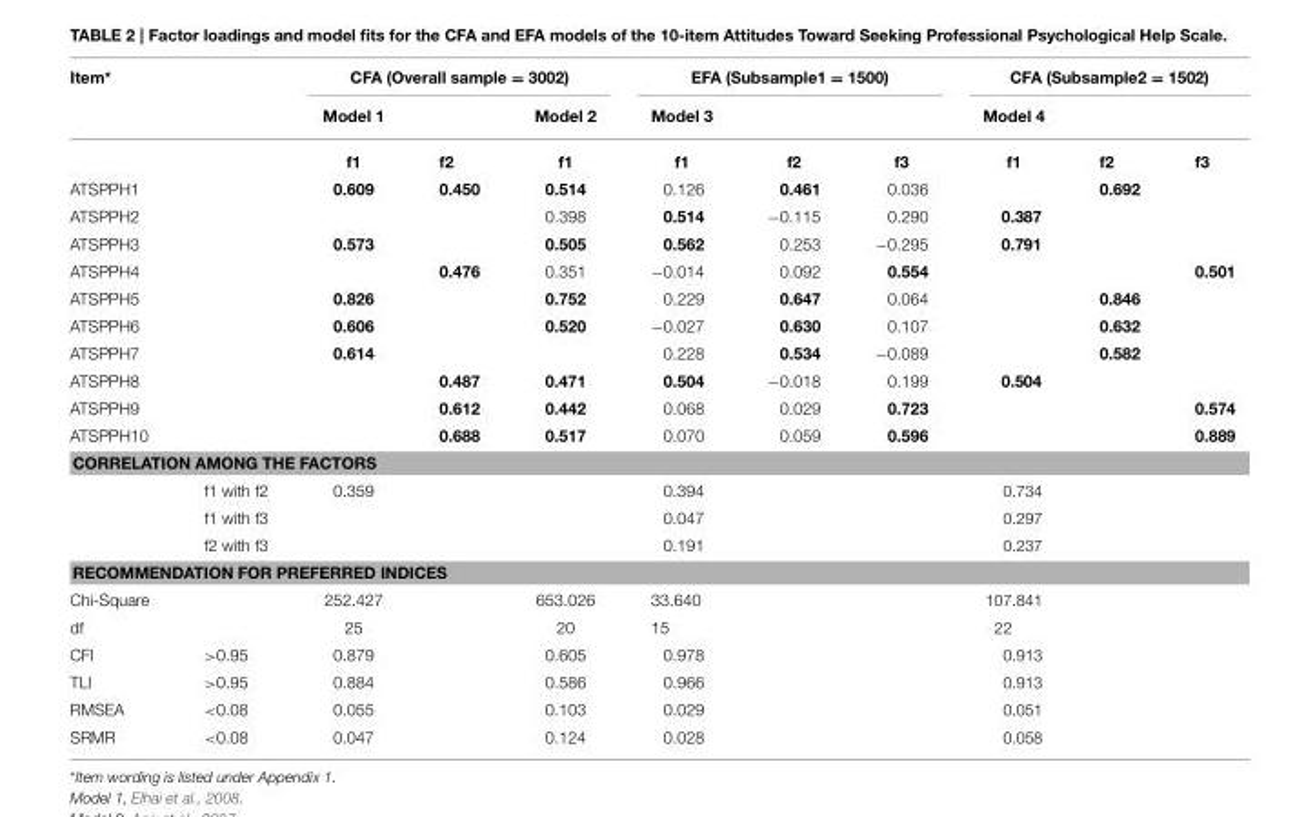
<table><thead><tr><td rowspan="2">Item*</td><td rowspan="2"></td><td colspan="3">CFA (Overall sample = 3002)</td><td colspan="3">EFA (Subsample1 = 1500)</td><td colspan="3">CFA (Subsample2 = 1502)</td></tr><tr><td>Model 1</td><td></td><td>Model 2</td><td>Model 3</td><td></td><td></td><td>Model 4</td><td></td><td></td></tr></thead><tbody><tr><td></td><td></td><td>f1</td><td>f2</td><td>f1</td><td>f1</td><td>f2</td><td>f3</td><td>f1</td><td>f2</td><td>f3</td></tr><tr><td>ATSPPH1</td><td></td><td>0.609</td><td>0.450</td><td>0.514</td><td>0.126</td><td>0.461</td><td>0.036</td><td></td><td>0.692</td><td></td></tr><tr><td>ATSPPH2</td><td></td><td></td><td></td><td>0.398</td><td>0.514</td><td>−0.115</td><td>0.290</td><td>0.387</td><td></td><td></td></tr><tr><td>ATSPPH3</td><td></td><td>0.573</td><td></td><td>0.505</td><td>0.562</td><td>0.253</td><td>−0.295</td><td>0.791</td><td></td><td></td></tr><tr><td>ATSPPH4</td><td></td><td></td><td>0.476</td><td>0.351</td><td>−0.014</td><td>0.092</td><td>0.554</td><td></td><td></td><td>0.501</td></tr><tr><td>ATSPPH5</td><td></td><td>0.826</td><td></td><td>0.752</td><td>0.229</td><td>0.647</td><td>0.064</td><td></td><td>0.846</td><td></td></tr><tr><td>ATSPPH6</td><td></td><td>0.606</td><td></td><td>0.520</td><td>−0.027</td><td>0.630</td><td>0.107</td><td></td><td>0.632</td><td></td></tr><tr><td>ATSPPH7</td><td></td><td>0.614</td><td></td><td></td><td>0.228</td><td>0.534</td><td>−0.089</td><td></td><td>0.582</td><td></td></tr><tr><td>ATSPPH8</td><td></td><td></td><td>0.487</td><td>0.471</td><td>0.504</td><td>−0.018</td><td>0.199</td><td>0.504</td><td></td><td></td></tr><tr><td>ATSPPH9</td><td></td><td></td><td>0.612</td><td>0.442</td><td>0.068</td><td>0.029</td><td>0.723</td><td></td><td></td><td>0.574</td></tr><tr><td>ATSPPH10</td><td></td><td></td><td>0.688</td><td>0.517</td><td>0.070</td><td>0.059</td><td>0.596</td><td></td><td></td><td>0.889</td></tr><tr><td colspan="11">CORRELATION AMONG THE FACTORS</td></tr><tr><td></td><td>f1 with f2</td><td>0.359</td><td></td><td></td><td>0.394</td><td></td><td></td><td>0.734</td><td></td><td></td></tr><tr><td></td><td>f1 with f3</td><td></td><td></td><td></td><td>0.047</td><td></td><td></td><td>0.297</td><td></td><td></td></tr><tr><td></td><td>f2 with f3</td><td></td><td></td><td></td><td>0.191</td><td></td><td></td><td>0.237</td><td></td><td></td></tr><tr><td colspan="11">RECOMMENDATION FOR PREFERRED INDICES</td></tr><tr><td>Chi-Square</td><td></td><td>252.427</td><td></td><td>653.026</td><td>33.640</td><td></td><td></td><td>107.841</td><td></td><td></td></tr><tr><td>df</td><td></td><td>25</td><td></td><td>20</td><td>15</td><td></td><td></td><td>22</td><td></td><td></td></tr><tr><td>CFI</td><td>&gt;0.95</td><td>0.879</td><td></td><td>0.605</td><td>0.978</td><td></td><td></td><td>0.913</td><td></td><td></td></tr><tr><td>TLI</td><td>&gt;0.95</td><td>0.884</td><td></td><td>0.586</td><td>0.966</td><td></td><td></td><td>0.913</td><td></td><td></td></tr><tr><td>RMSEA</td><td>&lt;0.08</td><td>0.055</td><td></td><td>0.103</td><td>0.029</td><td></td><td></td><td>0.051</td><td></td><td></td></tr><tr><td>SRMR</td><td>&lt;0.08</td><td>0.047</td><td></td><td>0.124</td><td>0.028</td><td></td><td></td><td>0.058</td><td></td><td></td></tr></tbody></table>